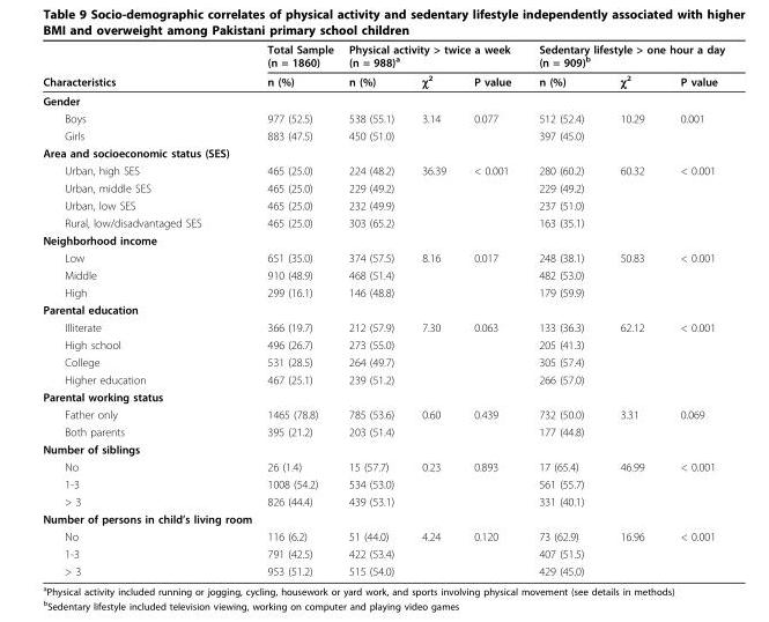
<table><thead><tr><td rowspan="2">Characteristics</td><td rowspan="2">Total Sample (n = 1860) n (%)</td><td colspan="3">Physical activity &gt; twice a week (n = 988)<sup>a</sup></td><td colspan="3">Sedentary lifestyle &gt; one hour a day (n = 909)<sup>b</sup></td></tr><tr><td>n (%)</td><td>χ<sup>2</sup></td><td>P value</td><td>n (%)</td><td>χ<sup>2</sup></td><td>P value</td></tr></thead><tbody><tr><td colspan="8">Gender</td></tr><tr><td>Boys</td><td>977 (52.5)</td><td>538 (55.1)</td><td>3.14</td><td>0.077</td><td>512 (52.4)</td><td>10.29</td><td>0.001</td></tr><tr><td>Girls</td><td>883 (47.5)</td><td>450 (51.0)</td><td></td><td></td><td>397 (45.0)</td><td></td><td></td></tr><tr><td colspan="8">Area and socioeconomic status (SES)</td></tr><tr><td>Urban, high SES</td><td>465 (25.0)</td><td>224 (48.2)</td><td>36.39</td><td>&lt; 0.001</td><td>280 (60.2)</td><td>60.32</td><td>&lt; 0.001</td></tr><tr><td>Urban, middle SES</td><td>465 (25.0)</td><td>229 (49.2)</td><td></td><td></td><td>229 (49.2)</td><td></td><td></td></tr><tr><td>Urban, low SES</td><td>465 (25.0)</td><td>232 (49.9)</td><td></td><td></td><td>237 (51.0)</td><td></td><td></td></tr><tr><td>Rural, low/disadvantaged SES</td><td>465 (25.0)</td><td>303 (65.2)</td><td></td><td></td><td>163 (35.1)</td><td></td><td></td></tr><tr><td colspan="8">Neighborhood income</td></tr><tr><td>Low</td><td>651 (35.0)</td><td>374 (57.5)</td><td>8.16</td><td>0.017</td><td>248 (38.1)</td><td>50.83</td><td>&lt; 0.001</td></tr><tr><td>Middle</td><td>910 (48.9)</td><td>468 (51.4)</td><td></td><td></td><td>482 (53.0)</td><td></td><td></td></tr><tr><td>High</td><td>299 (16.1)</td><td>146 (48.8)</td><td></td><td></td><td>179 (59.9)</td><td></td><td></td></tr><tr><td colspan="8">Parental education</td></tr><tr><td>Illiterate</td><td>366 (19.7)</td><td>212 (57.9)</td><td>7.30</td><td>0.063</td><td>133 (36.3)</td><td>62.12</td><td>&lt; 0.001</td></tr><tr><td>High school</td><td>496 (26.7)</td><td>273 (55.0)</td><td></td><td></td><td>205 (41.3)</td><td></td><td></td></tr><tr><td>College</td><td>531 (28.5)</td><td>264 (49.7)</td><td></td><td></td><td>305 (57.4)</td><td></td><td></td></tr><tr><td>Higher education</td><td>467 (25.1)</td><td>239 (51.2)</td><td></td><td></td><td>266 (57.0)</td><td></td><td></td></tr><tr><td colspan="8">Parental working status</td></tr><tr><td>Father only</td><td>1465 (78.8)</td><td>785 (53.6)</td><td>0.60</td><td>0.439</td><td>732 (50.0)</td><td>3.31</td><td>0.069</td></tr><tr><td>Both parents</td><td>395 (21.2)</td><td>203 (51.4)</td><td></td><td></td><td>177 (44.8)</td><td></td><td></td></tr><tr><td colspan="8">Number of siblings</td></tr><tr><td>No</td><td>26 (1.4)</td><td>15 (57.7)</td><td>0.23</td><td>0.893</td><td>17 (65.4)</td><td>46.99</td><td>&lt; 0.001</td></tr><tr><td>1-3</td><td>1008 (54.2)</td><td>534 (53.0)</td><td></td><td></td><td>561 (55.7)</td><td></td><td></td></tr><tr><td>&gt; 3</td><td>826 (44.4)</td><td>439 (53.1)</td><td></td><td></td><td>331 (40.1)</td><td></td><td></td></tr><tr><td colspan="8">Number of persons in child’s living room</td></tr><tr><td>No</td><td>116 (6.2)</td><td>51 (44.0)</td><td>4.24</td><td>0.120</td><td>73 (62.9)</td><td>16.96</td><td>&lt; 0.001</td></tr><tr><td>1-3</td><td>791 (42.5)</td><td>422 (53.4)</td><td></td><td></td><td>407 (51.5)</td><td></td><td></td></tr><tr><td>&gt; 3</td><td>953 (51.2)</td><td>515 (54.0)</td><td></td><td></td><td>429 (45.0)</td><td></td><td></td></tr></tbody></table>